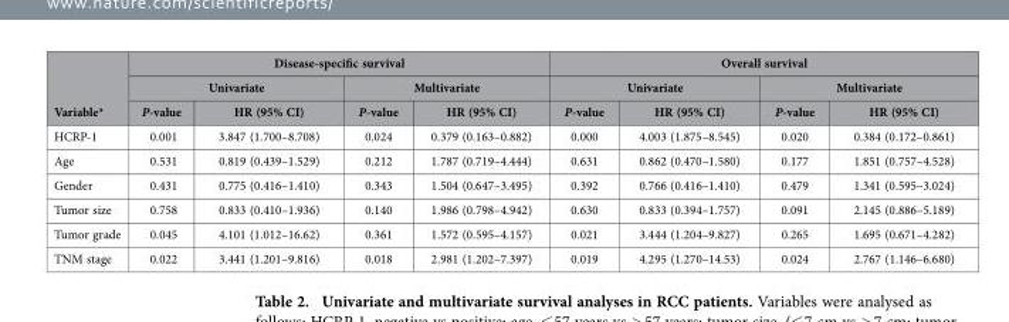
<table><thead><tr><td rowspan="3">Variable*</td><td colspan="4">Disease-specific survival</td><td colspan="4">Overall survival</td></tr><tr><td colspan="2">Univariate</td><td colspan="2">Multivariate</td><td colspan="2">Univariate</td><td colspan="2">Multivariate</td></tr><tr><td>P-value</td><td>HR (95% CI)</td><td>P-value</td><td>HR (95% CI)</td><td>P-value</td><td>HR (95% CI)</td><td>P-value</td><td>HR (95% CI)</td></tr></thead><tbody><tr><td>HCRP-1</td><td>0.001</td><td>3.847 (1.700–8.708)</td><td>0.024</td><td>0.379 (0.163–0.882)</td><td>0.000</td><td>4.003 (1.875–8.545)</td><td>0.020</td><td>0.384 (0.172–0.861)</td></tr><tr><td>Age</td><td>0.531</td><td>0.819 (0.439–1.529)</td><td>0.212</td><td>1.787 (0.719–4.444)</td><td>0.631</td><td>0.862 (0.470–1.580)</td><td>0.177</td><td>1.851 (0.757–4.528)</td></tr><tr><td>Gender</td><td>0.431</td><td>0.775 (0.416–1.410)</td><td>0.343</td><td>1.504 (0.647–3.495)</td><td>0.392</td><td>0.766 (0.416–1.410)</td><td>0.479</td><td>1.341 (0.595–3.024)</td></tr><tr><td>Tumor size</td><td>0.758</td><td>0.833 (0.410–1.936)</td><td>0.140</td><td>1.986 (0.798–4.942)</td><td>0.630</td><td>0.833 (0.394–1.757)</td><td>0.091</td><td>2.145 (0.886–5.189)</td></tr><tr><td>Tumor grade</td><td>0.045</td><td>4.101 (1.012–16.62)</td><td>0.361</td><td>1.572 (0.595–4.157)</td><td>0.021</td><td>3.444 (1.204–9.827)</td><td>0.265</td><td>1.695 (0.671–4.282)</td></tr><tr><td>TNM stage</td><td>0.022</td><td>3.441 (1.201–9.816)</td><td>0.018</td><td>2.981 (1.202–7.397)</td><td>0.019</td><td>4.295 (1.270–14.53)</td><td>0.024</td><td>2.767 (1.146–6.680)</td></tr></tbody></table>